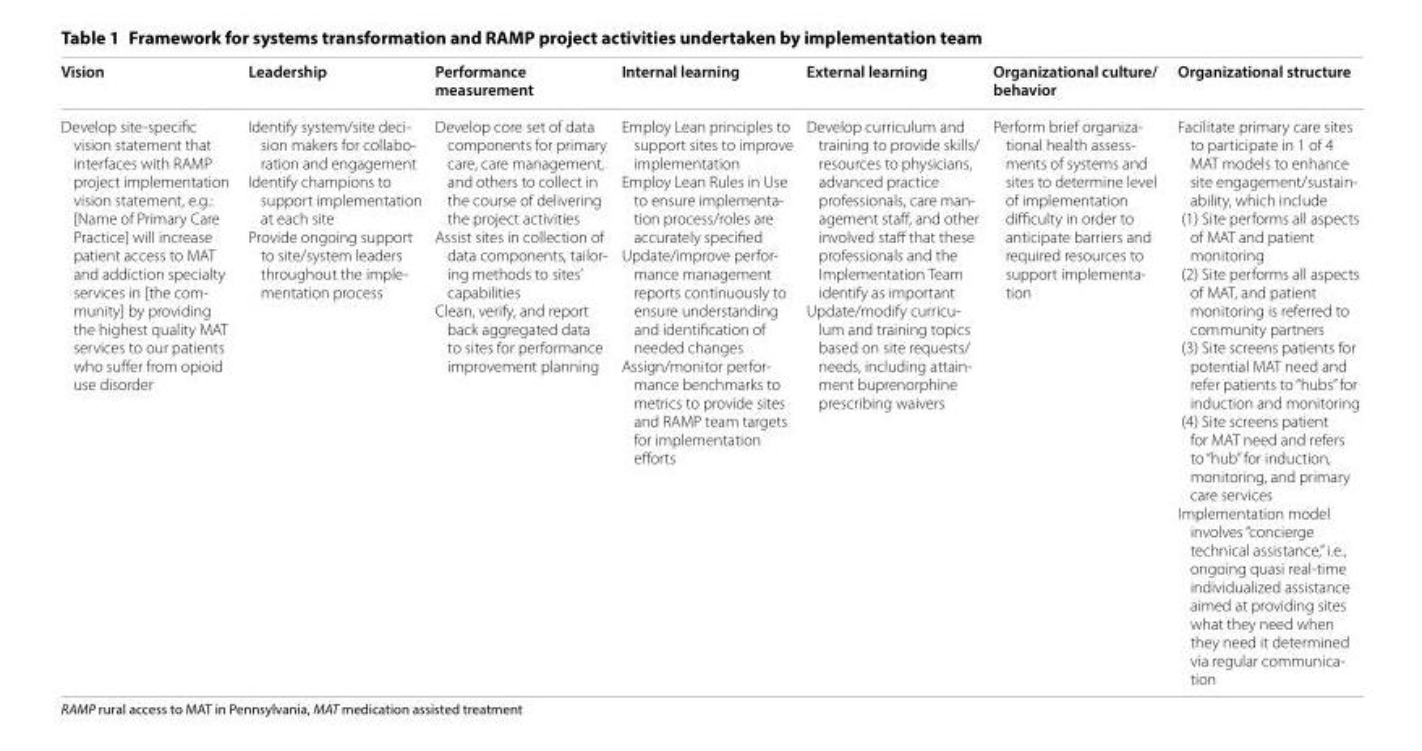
<table><thead><tr><td>Vision</td><td>Leadership</td><td>Performance measurement</td><td>Internal learning</td><td>External learning</td><td>Organizational culture/ behavior</td><td>Organizational structure</td></tr></thead><tbody><tr><td>Develop site-specific vision statement that interfaces with RAMP project implementation vision statement, e.g.: [Name of Primary Care Practice] will increase patient access to MAT and addiction specialty services in [the com- munity] by providing the highest quality MAT services to our patients who suffer from opioid use disorder</td><td>Identify system/site deci- sion makers for collabo- ration and engagement Identify champions to support implementation at each site Provide ongoing support to site/system leaders throughout the imple- mentation process</td><td>Develop core set of data components for primary care, care management, and others to collect in the course of delivering the project activities Assist sites in collection of data components, tailor- ing methods to sites’ capabilities Clean, verify, and report back aggregated data to sites for performance improvement planning</td><td>Employ Lean principles to support sites to improve implementation Employ Lean Rules in Use to ensure implementa- tion process/roles are accurately specified Update/improve perfor- mance management reports continuously to ensure understanding and identification of needed changes Assign/monitor perfor- mance benchmarks to metrics to provide sites and RAMP team targets for implementation efforts</td><td>Develop curriculum and training to provide skills/ resources to physicians, advanced practice professionals, care man- agement staff, and other involved staff that these professionals and the Implementation Team identify as important Update/modify curricu- lum and training topics based on site requests/ needs, including attain- ment buprenorphine prescribing waivers</td><td>Perform brief organiza- tional health assess- ments of systems and sites to determine level of implementation difficulty in order to anticipate barriers and required resources to support implementa- tion</td><td>Facilitate primary care sites to participate in 1 of 4 MAT models to enhance site engagement/sustain- ability, which include (1) Site performs all aspects of MAT and patient monitoring (2) Site performs all aspects of MAT, and patient monitoring is referred to community partners (3) Site screens patients for potential MAT need and refer patients to “hubs” for induction and monitoring (4) Site screens patient for MAT need and refers to “hub” for induction, monitoring, and primary care services Implementation model involves “concierge technical assistance,” i.e., ongoing quasi real-time individualized assistance aimed at providing sites what they need when they need it determined via regular communica- tion</td></tr></tbody></table>